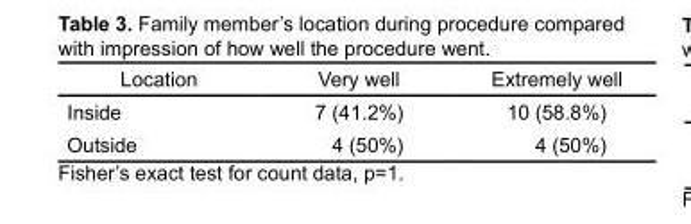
<table><thead><tr><td>Location</td><td>Very well</td><td>Extremely well</td></tr></thead><tbody><tr><td>Inside</td><td>7 (41.2%)</td><td>10 (58.8%)</td></tr><tr><td>Outside</td><td>4 (50%)</td><td>4 (50%)</td></tr></tbody></table>